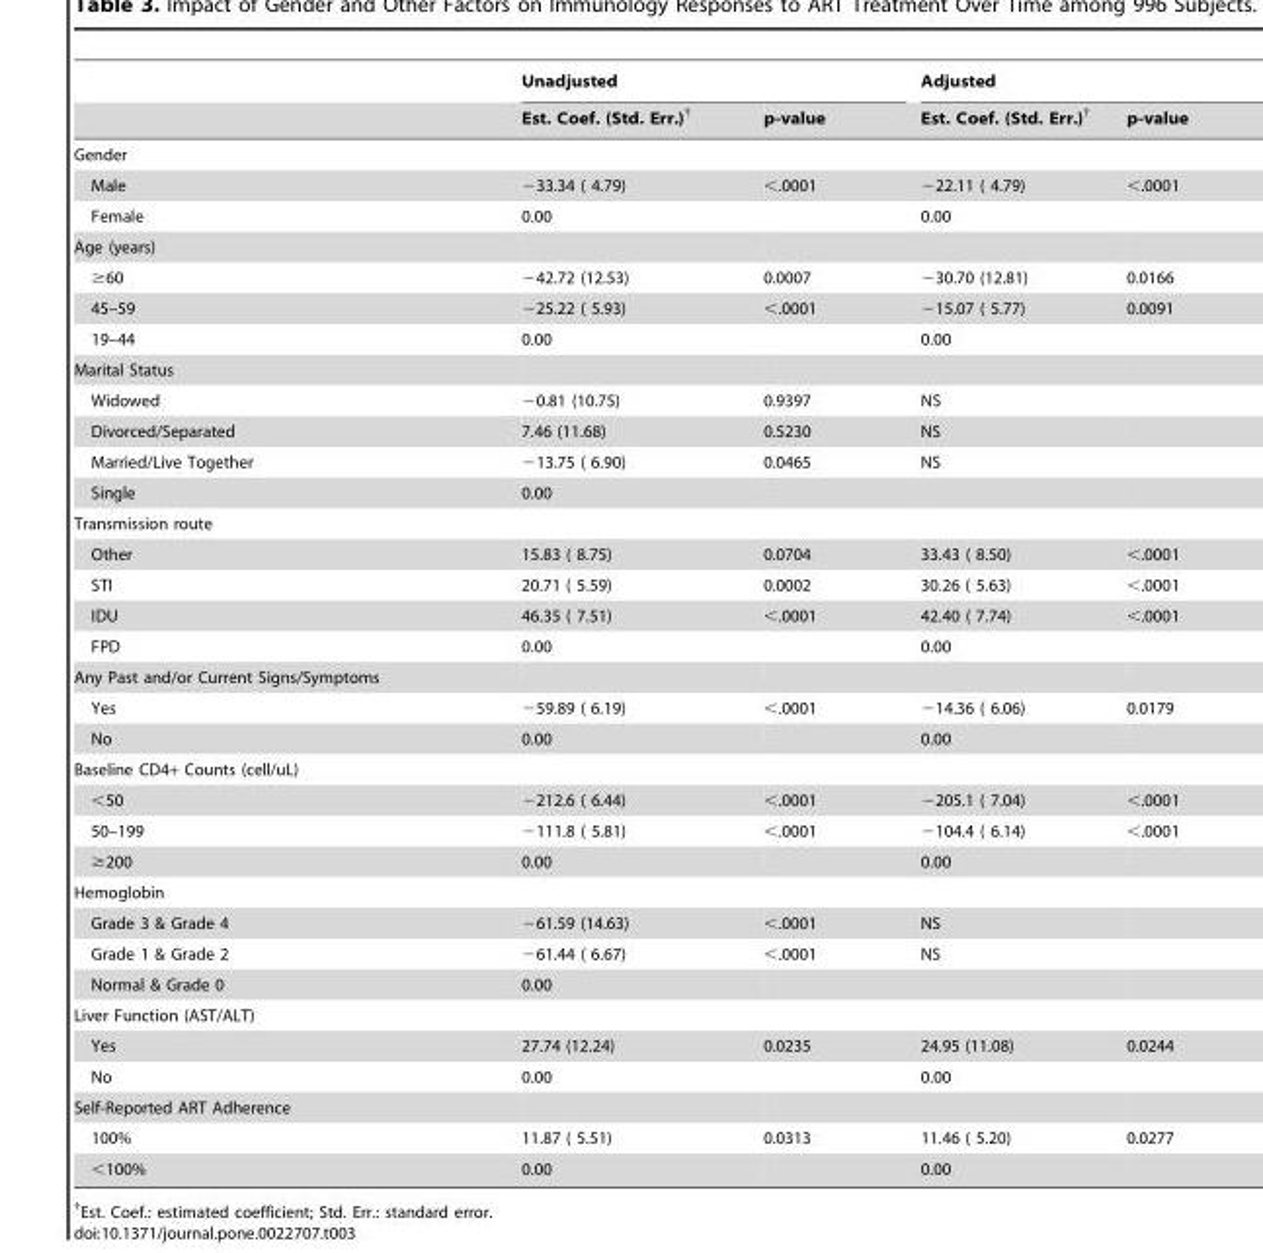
<table><thead><tr><td rowspan="2"></td><td colspan="2">Unadjusted</td><td colspan="2">Adjusted</td></tr><tr><td>Est. Coef. (Std. Err.)†</td><td>p-value</td><td>Est. Coef. (Std. Err.)†</td><td>p-value</td></tr></thead><tbody><tr><td colspan="5">Gender</td></tr><tr><td>Male</td><td>−33.34 ( 4.79)</td><td>&lt;.0001</td><td>−22.11 ( 4.79)</td><td>&lt;.0001</td></tr><tr><td>Female</td><td>0.00</td><td></td><td>0.00</td><td></td></tr><tr><td colspan="5">Age (years)</td></tr><tr><td>≥60</td><td>−42.72 (12.53)</td><td>0.0007</td><td>−30.70 (12.81)</td><td>0.0166</td></tr><tr><td>45–59</td><td>−25.22 ( 5.93)</td><td>&lt;.0001</td><td>−15.07 ( 5.77)</td><td>0.0091</td></tr><tr><td>19–44</td><td>0.00</td><td></td><td>0.00</td><td></td></tr><tr><td colspan="5">Marital Status</td></tr><tr><td>Widowed</td><td>−0.81 (10.75)</td><td>0.9397</td><td>NS</td><td></td></tr><tr><td>Divorced/Separated</td><td>7.46 (11.68)</td><td>0.5230</td><td>NS</td><td></td></tr><tr><td>Married/Live Together</td><td>−13.75 ( 6.90)</td><td>0.0465</td><td>NS</td><td></td></tr><tr><td>Single</td><td>0.00</td><td></td><td></td><td></td></tr><tr><td colspan="5">Transmission route</td></tr><tr><td>Other</td><td>15.83 ( 8.75)</td><td>0.0704</td><td>33.43 ( 8.50)</td><td>&lt;.0001</td></tr><tr><td>STI</td><td>20.71 ( 5.59)</td><td>0.0002</td><td>30.26 ( 5.63)</td><td>&lt;.0001</td></tr><tr><td>IDU</td><td>46.35 ( 7.51)</td><td>&lt;.0001</td><td>42.40 ( 7.74)</td><td>&lt;.0001</td></tr><tr><td>FPD</td><td>0.00</td><td></td><td>0.00</td><td></td></tr><tr><td colspan="5">Any Past and/or Current Signs/Symptoms</td></tr><tr><td>Yes</td><td>−59.89 ( 6.19)</td><td>&lt;.0001</td><td>−14.36 ( 6.06)</td><td>0.0179</td></tr><tr><td>No</td><td>0.00</td><td></td><td>0.00</td><td></td></tr><tr><td colspan="5">Baseline CD4+ Counts (cell/uL)</td></tr><tr><td>&lt;50</td><td>−212.6 ( 6.44)</td><td>&lt;.0001</td><td>−205.1 ( 7.04)</td><td>&lt;.0001</td></tr><tr><td>50–199</td><td>−111.8 ( 5.81)</td><td>&lt;.0001</td><td>−104.4 ( 6.14)</td><td>&lt;.0001</td></tr><tr><td>≥200</td><td>0.00</td><td></td><td>0.00</td><td></td></tr><tr><td colspan="5">Hemoglobin</td></tr><tr><td>Grade 3 &amp; Grade 4</td><td>−61.59 (14.63)</td><td>&lt;.0001</td><td>NS</td><td></td></tr><tr><td>Grade 1 &amp; Grade 2</td><td>−61.44 ( 6.67)</td><td>&lt;.0001</td><td>NS</td><td></td></tr><tr><td>Normal &amp; Grade 0</td><td>0.00</td><td></td><td></td><td></td></tr><tr><td colspan="5">Liver Function (AST/ALT)</td></tr><tr><td>Yes</td><td>27.74 (12.24)</td><td>0.0235</td><td>24.95 (11.08)</td><td>0.0244</td></tr><tr><td>No</td><td>0.00</td><td></td><td>0.00</td><td></td></tr><tr><td colspan="5">Self-Reported ART Adherence</td></tr><tr><td>100%</td><td>11.87 ( 5.51)</td><td>0.0313</td><td>11.46 ( 5.20)</td><td>0.0277</td></tr><tr><td>&lt;100%</td><td>0.00</td><td></td><td>0.00</td><td></td></tr></tbody></table>